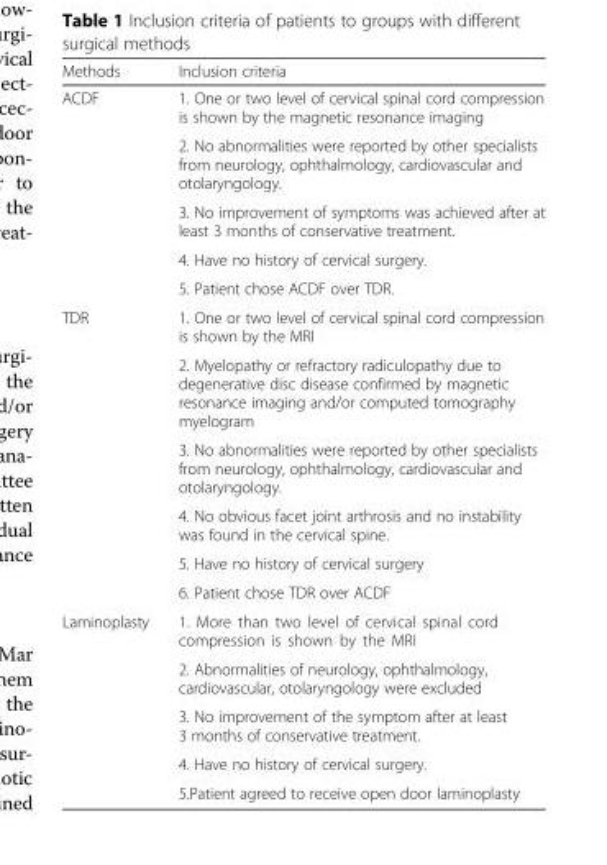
<table><thead><tr><td>Methods</td><td>Inclusion criteria</td></tr></thead><tbody><tr><td rowspan="5">ACDF</td><td>1. One or two level of cervical spinal cord compression is shown by the magnetic resonance imaging</td></tr><tr><td>2. No abnormalities were reported by other specialists from neurology, ophthalmology, cardiovascular and otolaryngology.</td></tr><tr><td>3. No improvement of symptoms was achieved after at least 3 months of conservative treatment.</td></tr><tr><td>4. Have no history of cervical surgery.</td></tr><tr><td>5. Patient chose ACDF over TDR.</td></tr><tr><td rowspan="6">TDR</td><td>1. One or two level of cervical spinal cord compression is shown by the MRI</td></tr><tr><td>2. Myelopathy or refractory radiculopathy due to degenerative disc disease confirmed by magnetic resonance imaging and/or computed tomography myelogram</td></tr><tr><td>3. No abnormalities were reported by other specialists from neurology, ophthalmology, cardiovascular and otolaryngology.</td></tr><tr><td>4. No obvious facet joint arthrosis and no instability was found in the cervical spine.</td></tr><tr><td>5. Have no history of cervical surgery</td></tr><tr><td>6. Patient chose TDR over ACDF</td></tr><tr><td rowspan="5">Laminoplasty</td><td>1. More than two level of cervical spinal cord compression is shown by the MRI</td></tr><tr><td>2. Abnormalities of neurology, ophthalmology, cardiovascular, otolaryngology were excluded</td></tr><tr><td>3. No improvement of the symptom after at least 3 months of conservative treatment.</td></tr><tr><td>4. Have no history of cervical surgery.</td></tr><tr><td>5.Patient agreed to receive open door laminoplasty</td></tr></tbody></table>